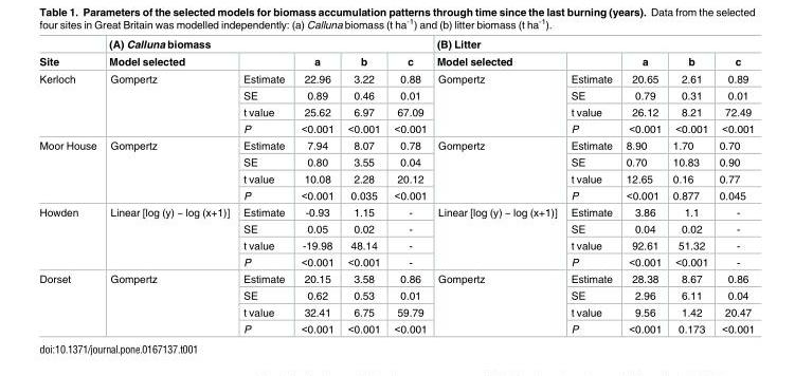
<table><thead><tr><td rowspan="2">Site</td><td colspan="5">(A) Calluna biomass</td><td colspan="5">(B) Litter</td></tr><tr><td>Model selected</td><td></td><td>a</td><td>b</td><td>c</td><td>Model selected</td><td></td><td>a</td><td>b</td><td>c</td></tr></thead><tbody><tr><td rowspan="4">Kerloch</td><td rowspan="4">Gompertz</td><td>Estimate</td><td>22.96</td><td>3.22</td><td>0.88</td><td rowspan="4">Gompertz</td><td>Estimate</td><td>20.65</td><td>2.61</td><td>0.89</td></tr><tr><td>SE</td><td>0.89</td><td>0.46</td><td>0.01</td><td>SE</td><td>0.79</td><td>0.31</td><td>0.01</td></tr><tr><td>t value</td><td>25.62</td><td>6.97</td><td>67.09</td><td>t value</td><td>26.12</td><td>8.21</td><td>72.49</td></tr><tr><td>P</td><td>&lt;0.001</td><td>&lt;0.001</td><td>&lt;0.001</td><td>P</td><td>&lt;0.001</td><td>&lt;0.001</td><td>&lt;0.001</td></tr><tr><td rowspan="4">Moor House</td><td rowspan="4">Gompertz</td><td>Estimate</td><td>7.94</td><td>8.07</td><td>0.78</td><td rowspan="4">Gompertz</td><td>Estimate</td><td>8.90</td><td>1.70</td><td>0.70</td></tr><tr><td>SE</td><td>0.80</td><td>3.55</td><td>0.04</td><td>SE</td><td>0.70</td><td>10.83</td><td>0.90</td></tr><tr><td>t value</td><td>10.08</td><td>2.28</td><td>20.12</td><td>t value</td><td>12.65</td><td>0.16</td><td>0.77</td></tr><tr><td>P</td><td>&lt;0.001</td><td>0.035</td><td>&lt;0.001</td><td>P</td><td>&lt;0.001</td><td>0.877</td><td>0.045</td></tr><tr><td rowspan="4">Howden</td><td rowspan="4">Linear [log (y) ~ log (x+1)]</td><td>Estimate</td><td>-0.93</td><td>1.15</td><td>-</td><td rowspan="4">Linear [log (y) ~ log (x+1)]</td><td>Estimate</td><td>3.86</td><td>1.1</td><td>-</td></tr><tr><td>SE</td><td>0.05</td><td>0.02</td><td>-</td><td>SE</td><td>0.04</td><td>0.02</td><td>-</td></tr><tr><td>t value</td><td>-19.98</td><td>48.14</td><td>-</td><td>t value</td><td>92.61</td><td>51.32</td><td>-</td></tr><tr><td>P</td><td>&lt;0.001</td><td>&lt;0.001</td><td>-</td><td>P</td><td>&lt;0.001</td><td>&lt;0.001</td><td>-</td></tr><tr><td rowspan="4">Dorset</td><td rowspan="4">Gompertz</td><td>Estimate</td><td>20.15</td><td>3.58</td><td>0.86</td><td rowspan="4">Gompertz</td><td>Estimate</td><td>28.38</td><td>8.67</td><td>0.86</td></tr><tr><td>SE</td><td>0.62</td><td>0.53</td><td>0.01</td><td>SE</td><td>2.96</td><td>6.11</td><td>0.04</td></tr><tr><td>t value</td><td>32.41</td><td>6.75</td><td>59.79</td><td>t value</td><td>9.56</td><td>1.42</td><td>20.47</td></tr><tr><td>P</td><td>&lt;0.001</td><td>&lt;0.001</td><td>&lt;0.001</td><td>P</td><td>&lt;0.001</td><td>0.173</td><td>&lt;0.001</td></tr></tbody></table>